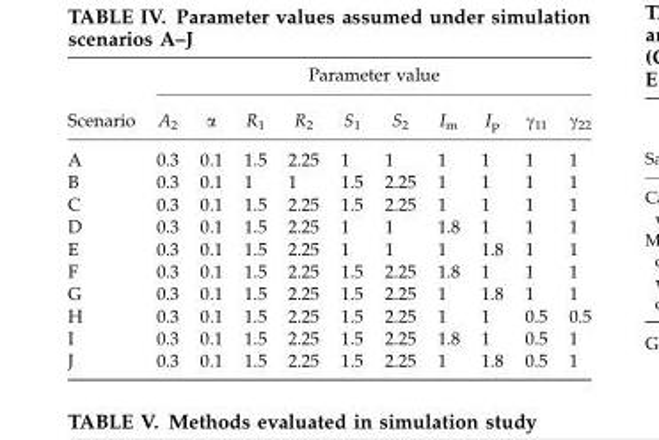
<table><thead><tr><td rowspan="2">Scenario</td><td colspan="10">Parameter value</td></tr><tr><td>A<sub>2</sub></td><td>α</td><td>R<sub>1</sub></td><td>R<sub>2</sub></td><td>S<sub>1</sub></td><td>S<sub>2</sub></td><td>I<sub>m</sub></td><td>I<sub>p</sub></td><td>γ<sub>11</sub></td><td>γ<sub>22</sub></td></tr></thead><tbody><tr><td>A</td><td>0.3</td><td>0.1</td><td>1.5</td><td>2.25</td><td>1</td><td>1</td><td>1</td><td>1</td><td>1</td><td>1</td></tr><tr><td>B</td><td>0.3</td><td>0.1</td><td>1</td><td>1</td><td>1.5</td><td>2.25</td><td>1</td><td>1</td><td>1</td><td>1</td></tr><tr><td>C</td><td>0.3</td><td>0.1</td><td>1.5</td><td>2.25</td><td>1.5</td><td>2.25</td><td>1</td><td>1</td><td>1</td><td>1</td></tr><tr><td>D</td><td>0.3</td><td>0.1</td><td>1.5</td><td>2.25</td><td>1</td><td>1</td><td>1.8</td><td>1</td><td>1</td><td>1</td></tr><tr><td>E</td><td>0.3</td><td>0.1</td><td>1.5</td><td>2.25</td><td>1</td><td>1</td><td>1</td><td>1.8</td><td>1</td><td>1</td></tr><tr><td>F</td><td>0.3</td><td>0.1</td><td>1.5</td><td>2.25</td><td>1.5</td><td>2.25</td><td>1.8</td><td>1</td><td>1</td><td>1</td></tr><tr><td>G</td><td>0.3</td><td>0.1</td><td>1.5</td><td>2.25</td><td>1.5</td><td>2.25</td><td>1</td><td>1.8</td><td>1</td><td>1</td></tr><tr><td>H</td><td>0.3</td><td>0.1</td><td>1.5</td><td>2.25</td><td>1.5</td><td>2.25</td><td>1</td><td>1</td><td>0.5</td><td>0.5</td></tr><tr><td>I</td><td>0.3</td><td>0.1</td><td>1.5</td><td>2.25</td><td>1.5</td><td>2.25</td><td>1.8</td><td>1</td><td>0.5</td><td>1</td></tr><tr><td>J</td><td>0.3</td><td>0.1</td><td>1.5</td><td>2.25</td><td>1.5</td><td>2.25</td><td>1</td><td>1.8</td><td>0.5</td><td>1</td></tr></tbody></table>